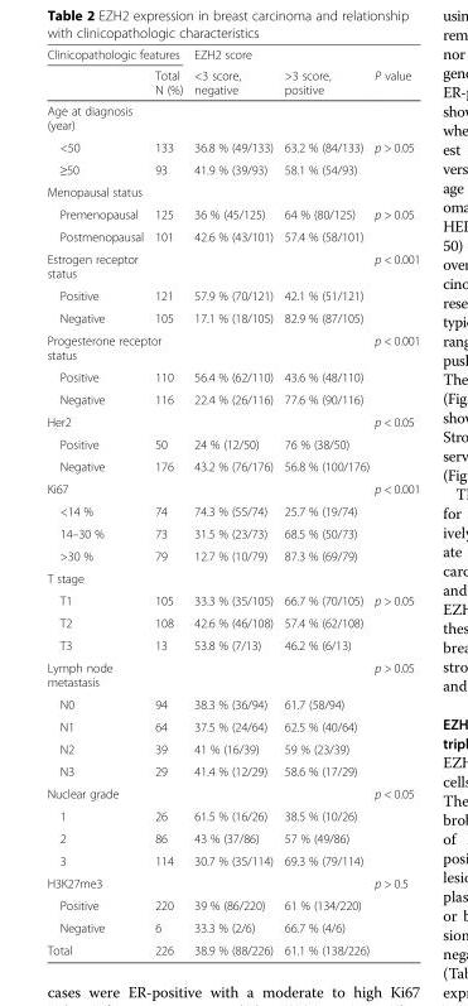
<table><thead><tr><td colspan="2">Clinicopathologic features</td><td rowspan="2">EZH2 score &lt;3 score, negative</td><td rowspan="2">&gt;3 score, positive</td><td rowspan="2">P value</td></tr><tr><td></td><td>Total N (%)</td></tr></thead><tbody><tr><td colspan="5">Age at diagnosis (year)</td></tr><tr><td>&lt;50</td><td>133</td><td>36.8 % (49/133)</td><td>63.2 % (84/133)</td><td>p &gt; 0.05</td></tr><tr><td>≥50</td><td>93</td><td>41.9 % (39/93)</td><td colspan="2">58.1 % (54/93)</td></tr><tr><td colspan="5">Menopausal status</td></tr><tr><td>Premenopausal</td><td>125</td><td>36 % (45/125)</td><td>64 % (80/125)</td><td>p &gt; 0.05</td></tr><tr><td>Postmenopausal</td><td>101</td><td>42.6 % (43/101)</td><td colspan="2">57.4 % (58/101)</td></tr><tr><td colspan="3">Estrogen receptor status</td><td></td><td>p &lt; 0.001</td></tr><tr><td>Positive</td><td>121</td><td>57.9 % (70/121)</td><td colspan="2">42.1 % (51/121)</td></tr><tr><td>Negative</td><td>105</td><td>17.1 % (18/105)</td><td colspan="2">82.9 % (87/105)</td></tr><tr><td colspan="3">Progesterone receptor status</td><td></td><td>p &lt; 0.001</td></tr><tr><td>Positive</td><td>110</td><td>56.4 % (62/110)</td><td colspan="2">43.6 % (48/110)</td></tr><tr><td>Negative</td><td>116</td><td>22.4 % (26/116)</td><td colspan="2">77.6 % (90/116)</td></tr><tr><td>Her2</td><td></td><td></td><td></td><td>p &lt; 0.05</td></tr><tr><td>Positive</td><td>50</td><td>24 % (12/50)</td><td colspan="2">76 % (38/50)</td></tr><tr><td>Negative</td><td>176</td><td>43.2 % (76/176)</td><td colspan="2">56.8 % (100/176)</td></tr><tr><td>Ki67</td><td></td><td></td><td></td><td>p &lt; 0.001</td></tr><tr><td>&lt;14 %</td><td>74</td><td>74.3 % (55/74)</td><td colspan="2">25.7 % (19/74)</td></tr><tr><td>14–30 %</td><td>73</td><td>31.5 % (23/73)</td><td colspan="2">68.5 % (50/73)</td></tr><tr><td>&gt;30 %</td><td>79</td><td>12.7 % (10/79)</td><td colspan="2">87.3 % (69/79)</td></tr><tr><td colspan="5">T stage</td></tr><tr><td>T1</td><td>105</td><td>33.3 % (35/105)</td><td>66.7 % (70/105)</td><td>p &gt; 0.05</td></tr><tr><td>T2</td><td>108</td><td>42.6 % (46/108)</td><td colspan="2">57.4 % (62/108)</td></tr><tr><td>T3</td><td>13</td><td>53.8 % (7/13)</td><td colspan="2">46.2 % (6/13)</td></tr><tr><td colspan="2">Lymph node metastasis</td><td></td><td></td><td>p &gt; 0.05</td></tr><tr><td>N0</td><td>94</td><td>38.3 % (36/94)</td><td>61.7 (58/94)</td><td></td></tr><tr><td>N1</td><td>64</td><td>37.5 % (24/64)</td><td colspan="2">62.5 % (40/64)</td></tr><tr><td>N2</td><td>39</td><td>41 % (16/39)</td><td colspan="2">59 % (23/39)</td></tr><tr><td>N3</td><td>29</td><td>41.4 % (12/29)</td><td colspan="2">58.6 % (17/29)</td></tr><tr><td colspan="2">Nuclear grade</td><td></td><td></td><td>p &lt; 0.05</td></tr><tr><td>1</td><td>26</td><td>61.5 % (16/26)</td><td colspan="2">38.5 % (10/26)</td></tr><tr><td>2</td><td>86</td><td>43 % (37/86)</td><td colspan="2">57 % (49/86)</td></tr><tr><td>3</td><td>114</td><td>30.7 % (35/114)</td><td colspan="2">69.3 % (79/114)</td></tr><tr><td colspan="2">H3K27me3</td><td></td><td></td><td>p &gt; 0.5</td></tr><tr><td>Positive</td><td>220</td><td>39 % (86/220)</td><td colspan="2">61 % (134/220)</td></tr><tr><td>Negative</td><td>6</td><td>33.3 % (2/6)</td><td>66.7 % (4/6)</td><td></td></tr><tr><td>Total</td><td>226</td><td>38.9 % (88/226)</td><td colspan="2">61.1 % (138/226)</td></tr></tbody></table>